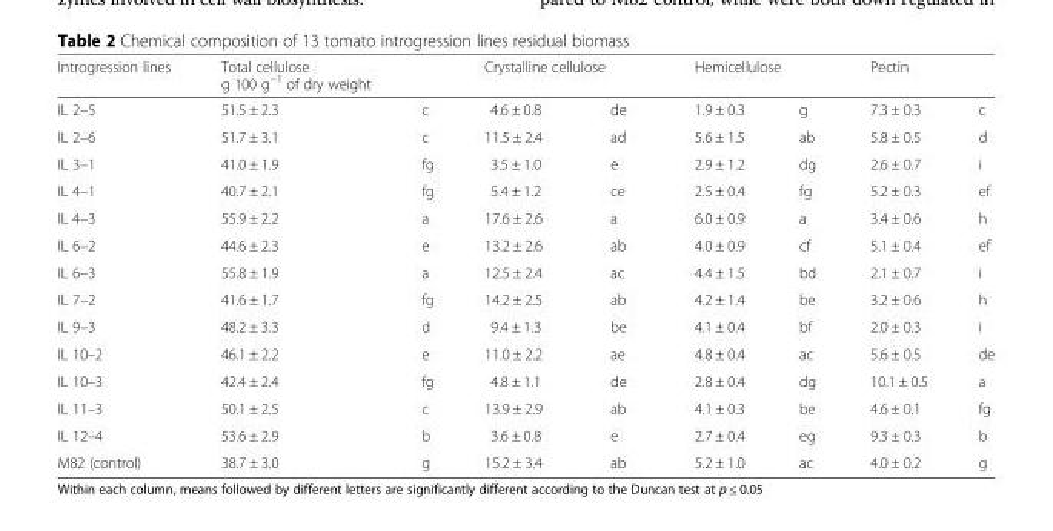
<table><thead><tr><td rowspan="2">Introgression lines IL 2–5</td><td rowspan="2">Total cellulose g 100 g<sup>−1</sup> of dry weight 51.5 ± 2.3</td><td rowspan="2">c</td><td colspan="2">Crystalline cellulose</td><td colspan="2">Hemicellulose</td><td rowspan="2">Pectin 7.3 ± 0.3</td><td rowspan="2">c</td></tr><tr><td>4.6 ± 0.8</td><td>de</td><td>1.9 ± 0.3</td><td>g</td></tr></thead><tbody><tr><td>IL 2–6</td><td>51.7 ± 3.1</td><td>c</td><td>11.5 ± 2.4</td><td>ad</td><td>5.6 ± 1.5</td><td>ab</td><td>5.8 ± 0.5</td><td>d</td></tr><tr><td>IL 3–1</td><td>41.0 ± 1.9</td><td>fg</td><td>3.5 ± 1.0</td><td>e</td><td>2.9 ± 1.2</td><td>dg</td><td>2.6 ± 0.7</td><td>i</td></tr><tr><td>IL 4–1</td><td>40.7 ± 2.1</td><td>fg</td><td>5.4 ± 1.2</td><td>ce</td><td>2.5 ± 0.4</td><td>fg</td><td>5.2 ± 0.3</td><td>ef</td></tr><tr><td>IL 4–3</td><td>55.9 ± 2.2</td><td>a</td><td>17.6 ± 2.6</td><td>a</td><td>6.0 ± 0.9</td><td>a</td><td>3.4 ± 0.6</td><td>h</td></tr><tr><td>IL 6–2</td><td>44.6 ± 2.3</td><td>e</td><td>13.2 ± 2.6</td><td>ab</td><td>4.0 ± 0.9</td><td>cf</td><td>5.1 ± 0.4</td><td>ef</td></tr><tr><td>IL 6–3</td><td>55.8 ± 1.9</td><td>a</td><td>12.5 ± 2.4</td><td>ac</td><td>4.4 ± 1.5</td><td>bd</td><td>2.1 ± 0.7</td><td>i</td></tr><tr><td>IL 7–2</td><td>41.6 ± 1.7</td><td>fg</td><td>14.2 ± 2.5</td><td>ab</td><td>4.2 ± 1.4</td><td>be</td><td>3.2 ± 0.6</td><td>h</td></tr><tr><td>IL 9–3</td><td>48.2 ± 3.3</td><td>d</td><td>9.4 ± 1.3</td><td>be</td><td>4.1 ± 0.4</td><td>bf</td><td>2.0 ± 0.3</td><td>i</td></tr><tr><td>IL 10–2</td><td>46.1 ± 2.2</td><td>e</td><td>11.0 ± 2.2</td><td>ae</td><td>4.8 ± 0.4</td><td>ac</td><td>5.6 ± 0.5</td><td>de</td></tr><tr><td>IL 10–3</td><td>42.4 ± 2.4</td><td>fg</td><td>4.8 ± 1.1</td><td>de</td><td>2.8 ± 0.4</td><td>dg</td><td>10.1 ± 0.5</td><td>a</td></tr><tr><td>IL 11–3</td><td>50.1 ± 2.5</td><td>c</td><td>13.9 ± 2.9</td><td>ab</td><td>4.1 ± 0.3</td><td>be</td><td>4.6 ± 0.1</td><td>fg</td></tr><tr><td>IL 12–4</td><td>53.6 ± 2.9</td><td>b</td><td>3.6 ± 0.8</td><td>e</td><td>2.7 ± 0.4</td><td>eg</td><td>9.3 ± 0.3</td><td>b</td></tr><tr><td>M82 (control)</td><td>38.7 ± 3.0</td><td>g</td><td>15.2 ± 3.4</td><td>ab</td><td>5.2 ± 1.0</td><td>ac</td><td>4.0 ± 0.2</td><td>g</td></tr></tbody></table>